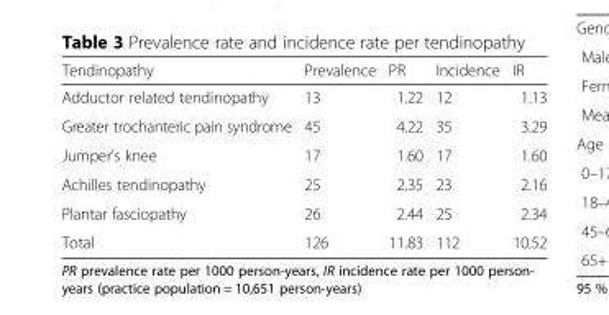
<table><thead><tr><td>Tendinopathy</td><td>Prevalence</td><td>PR</td><td>Incidence</td><td>IR</td></tr></thead><tbody><tr><td>Adductor related tendinopathy</td><td>13</td><td>1.22</td><td>12</td><td>1.13</td></tr><tr><td>Greater trochanteric pain syndrome</td><td>45</td><td>4.22</td><td>35</td><td>3.29</td></tr><tr><td>Jumper’s knee</td><td>17</td><td>1.60</td><td>17</td><td>1.60</td></tr><tr><td>Achilles tendinopathy</td><td>25</td><td>2.35</td><td>23</td><td>2.16</td></tr><tr><td>Plantar fasciopathy</td><td>26</td><td>2.44</td><td>25</td><td>2.34</td></tr><tr><td>Total</td><td>126</td><td>11.83</td><td>112</td><td>10.52</td></tr></tbody></table>